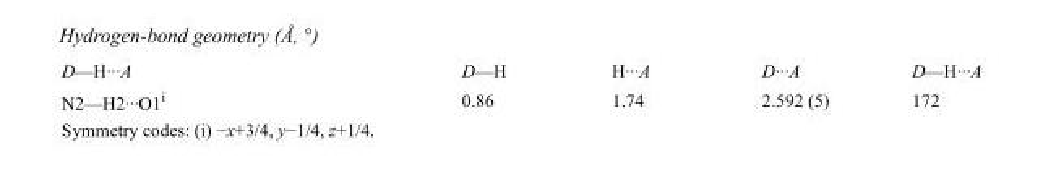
<table><tbody><tr><td>D—H···A</td><td>D—H</td><td>H···A</td><td>D···A</td><td>D—H···A</td></tr><tr><td>N2—H2···O1<sup>i</sup></td><td>0.86</td><td>1.74</td><td>2.592 (5)</td><td>172</td></tr></tbody></table>